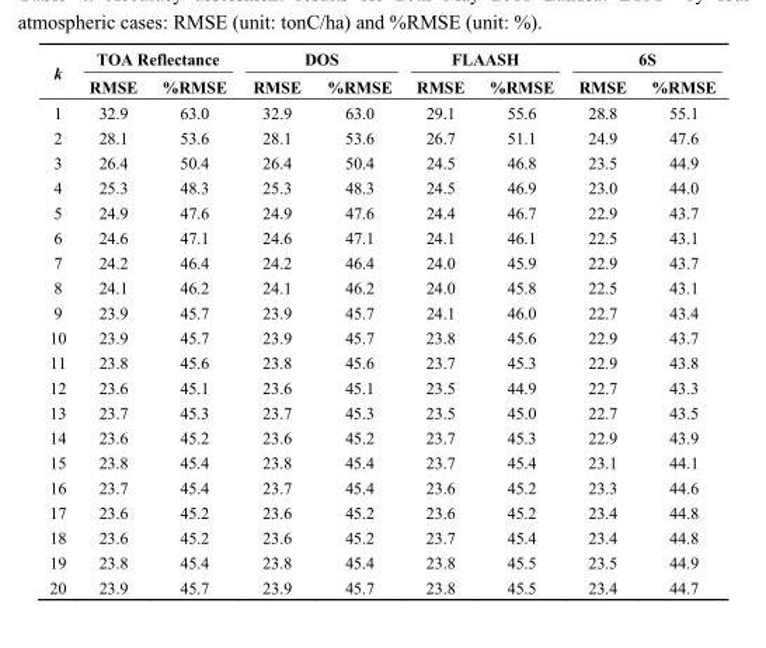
<table><thead><tr><td rowspan="2">k</td><td colspan="2">TOA Reflectance</td><td colspan="2">DOS</td><td colspan="2">FLAASH</td><td colspan="2">6S</td></tr><tr><td>RMSE</td><td>%RMSE</td><td>RMSE</td><td>%RMSE</td><td>RMSE</td><td>%RMSE</td><td>RMSE</td><td>%RMSE</td></tr></thead><tbody><tr><td>1</td><td>32.9</td><td>63.0</td><td>32.9</td><td>63.0</td><td>29.1</td><td>55.6</td><td>28.8</td><td>55.1</td></tr><tr><td>2</td><td>28.1</td><td>53.6</td><td>28.1</td><td>53.6</td><td>26.7</td><td>51.1</td><td>24.9</td><td>47.6</td></tr><tr><td>3</td><td>26.4</td><td>50.4</td><td>26.4</td><td>50.4</td><td>24.5</td><td>46.8</td><td>23.5</td><td>44.9</td></tr><tr><td>4</td><td>25.3</td><td>48.3</td><td>25.3</td><td>48.3</td><td>24.5</td><td>46.9</td><td>23.0</td><td>44.0</td></tr><tr><td>5</td><td>24.9</td><td>47.6</td><td>24.9</td><td>47.6</td><td>24.4</td><td>46.7</td><td>22.9</td><td>43.7</td></tr><tr><td>6</td><td>24.6</td><td>47.1</td><td>24.6</td><td>47.1</td><td>24.1</td><td>46.1</td><td>22.5</td><td>43.1</td></tr><tr><td>7</td><td>24.2</td><td>46.4</td><td>24.2</td><td>46.4</td><td>24.0</td><td>45.9</td><td>22.9</td><td>43.7</td></tr><tr><td>8</td><td>24.1</td><td>46.2</td><td>24.1</td><td>46.2</td><td>24.0</td><td>45.8</td><td>22.5</td><td>43.1</td></tr><tr><td>9</td><td>23.9</td><td>45.7</td><td>23.9</td><td>45.7</td><td>24.1</td><td>46.0</td><td>22.7</td><td>43.4</td></tr><tr><td>10</td><td>23.9</td><td>45.7</td><td>23.9</td><td>45.7</td><td>23.8</td><td>45.6</td><td>22.9</td><td>43.7</td></tr><tr><td>11</td><td>23.8</td><td>45.6</td><td>23.8</td><td>45.6</td><td>23.7</td><td>45.3</td><td>22.9</td><td>43.8</td></tr><tr><td>12</td><td>23.6</td><td>45.1</td><td>23.6</td><td>45.1</td><td>23.5</td><td>44.9</td><td>22.7</td><td>43.3</td></tr><tr><td>13</td><td>23.7</td><td>45.3</td><td>23.7</td><td>45.3</td><td>23.5</td><td>45.0</td><td>22.7</td><td>43.5</td></tr><tr><td>14</td><td>23.6</td><td>45.2</td><td>23.6</td><td>45.2</td><td>23.7</td><td>45.3</td><td>22.9</td><td>43.9</td></tr><tr><td>15</td><td>23.8</td><td>45.4</td><td>23.8</td><td>45.4</td><td>23.7</td><td>45.4</td><td>23.1</td><td>44.1</td></tr><tr><td>16</td><td>23.7</td><td>45.4</td><td>23.7</td><td>45.4</td><td>23.6</td><td>45.2</td><td>23.3</td><td>44.6</td></tr><tr><td>17</td><td>23.6</td><td>45.2</td><td>23.6</td><td>45.2</td><td>23.6</td><td>45.2</td><td>23.4</td><td>44.8</td></tr><tr><td>18</td><td>23.6</td><td>45.2</td><td>23.6</td><td>45.2</td><td>23.7</td><td>45.4</td><td>23.4</td><td>44.8</td></tr><tr><td>19</td><td>23.8</td><td>45.4</td><td>23.8</td><td>45.4</td><td>23.8</td><td>45.5</td><td>23.5</td><td>44.9</td></tr><tr><td>20</td><td>23.9</td><td>45.7</td><td>23.9</td><td>45.7</td><td>23.8</td><td>45.5</td><td>23.4</td><td>44.7</td></tr></tbody></table>